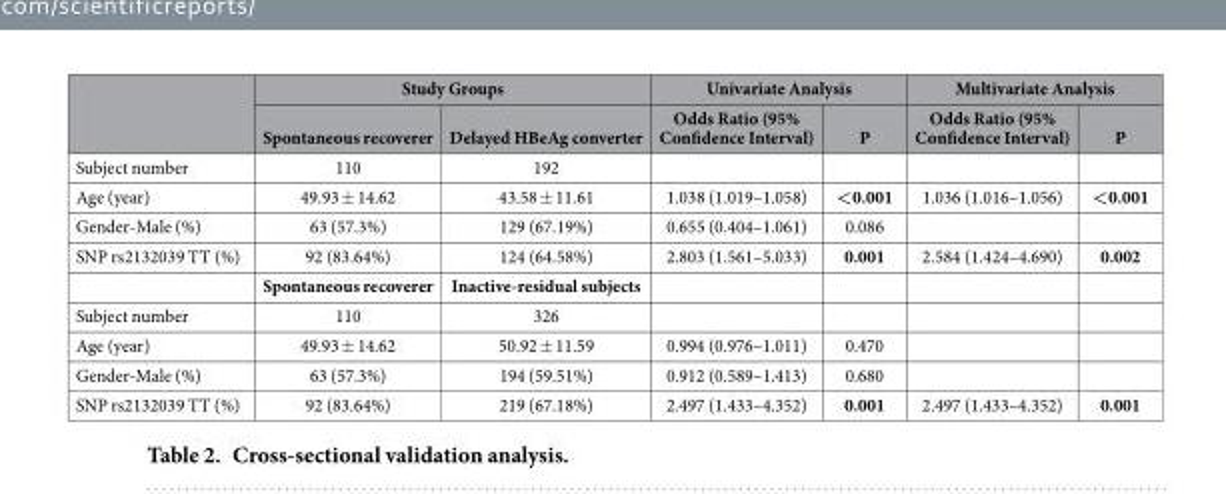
<table><thead><tr><td rowspan="2"></td><td colspan="2">Study Groups</td><td colspan="2">Univariate Analysis</td><td colspan="2">Multivariate Analysis</td></tr><tr><td>Spontaneous recoverer</td><td>Delayed HBeAg converter</td><td>Odds Ratio (95% Confidence Interval)</td><td>P</td><td>Odds Ratio (95% Confidence Interval)</td><td>P</td></tr></thead><tbody><tr><td>Subject number</td><td>110</td><td>192</td><td></td><td></td><td></td><td></td></tr><tr><td>Age (year)</td><td>49.93 ± 14.62</td><td>43.58 ± 11.61</td><td>1.038 (1.019–1.058)</td><td>&lt;0.001</td><td>1.036 (1.016–1.056)</td><td>&lt;0.001</td></tr><tr><td>Gender-Male (%)</td><td>63 (57.3%)</td><td>129 (67.19%)</td><td>0.655 (0.404–1.061)</td><td>0.086</td><td></td><td></td></tr><tr><td rowspan="2">SNP rs2132039 TT (%)</td><td>92 (83.64%)</td><td>124 (64.58%)</td><td>2.803 (1.561–5.033)</td><td>0.001</td><td>2.584 (1.424–4.690)</td><td>0.002</td></tr><tr><td>Spontaneous recoverer</td><td>Inactive-residual subjects</td><td></td><td></td><td></td><td></td></tr><tr><td>Subject number</td><td>110</td><td>326</td><td></td><td></td><td></td><td></td></tr><tr><td>Age (year)</td><td>49.93 ± 14.62</td><td>50.92 ± 11.59</td><td>0.994 (0.976–1.011)</td><td>0.470</td><td></td><td></td></tr><tr><td>Gender-Male (%)</td><td>63 (57.3%)</td><td>194 (59.51%)</td><td>0.912 (0.589–1.413)</td><td>0.680</td><td></td><td></td></tr><tr><td>SNP rs2132039 TT (%)</td><td>92 (83.64%)</td><td>219 (67.18%)</td><td>2.497 (1.433–4.352)</td><td>0.001</td><td>2.497 (1.433–4.352)</td><td>0.001</td></tr></tbody></table>